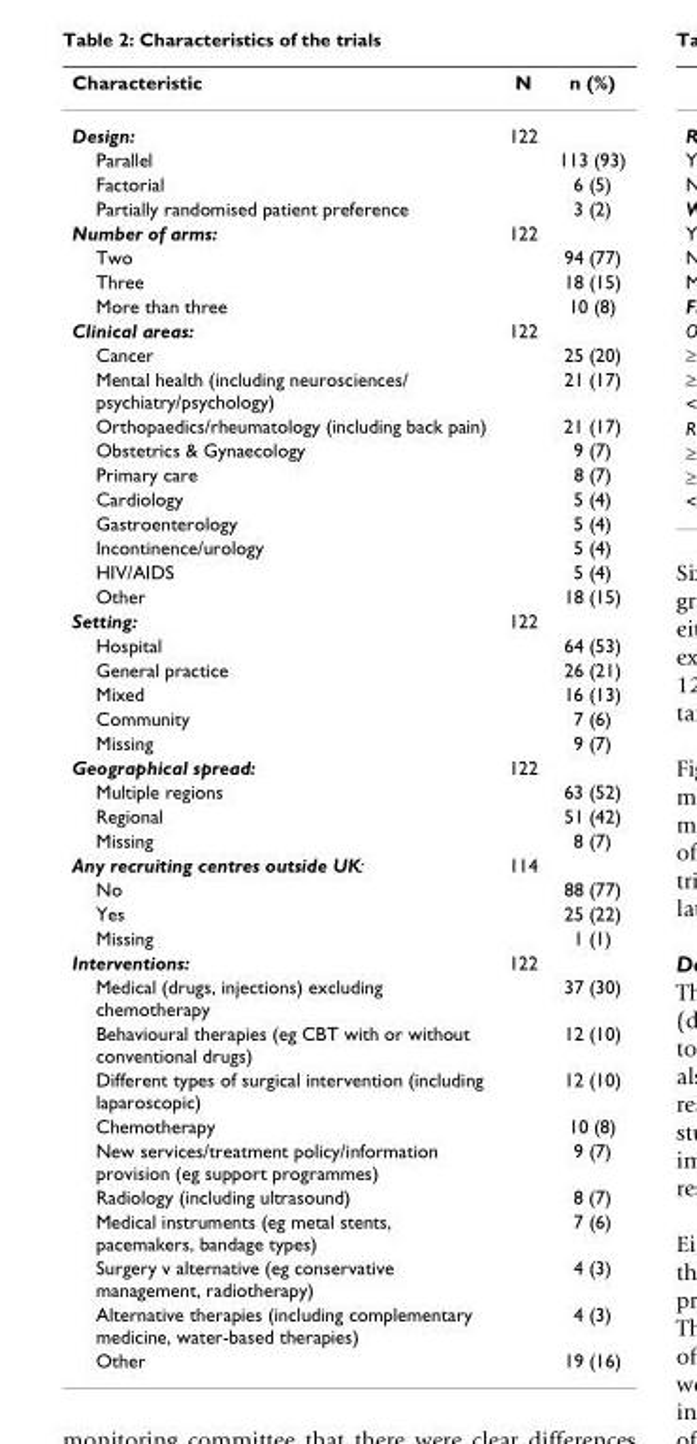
<table><thead><tr><td>Characteristic</td><td>N</td><td>n (%)</td></tr></thead><tbody><tr><td>Design:</td><td>122</td><td></td></tr><tr><td>Parallel</td><td></td><td>113 (93)</td></tr><tr><td>Factorial</td><td></td><td>6 (5)</td></tr><tr><td>Partially randomised patient preference</td><td></td><td>3 (2)</td></tr><tr><td>Number of arms:</td><td>122</td><td></td></tr><tr><td>Two</td><td></td><td>94 (77)</td></tr><tr><td>Three</td><td></td><td>18 (15)</td></tr><tr><td>More than three</td><td></td><td>10 (8)</td></tr><tr><td>Clinical areas:</td><td>122</td><td></td></tr><tr><td>Cancer</td><td></td><td>25 (20)</td></tr><tr><td>Mental health (including neurosciences/ psychiatry/psychology)</td><td></td><td>21 (17)</td></tr><tr><td>Orthopaedics/rheumatology (including back pain)</td><td></td><td>21 (17)</td></tr><tr><td>Obstetrics &amp; Gynaecology</td><td></td><td>9 (7)</td></tr><tr><td>Primary care</td><td></td><td>8 (7)</td></tr><tr><td>Cardiology</td><td></td><td>5 (4)</td></tr><tr><td>Gastroenterology</td><td></td><td>5 (4)</td></tr><tr><td>Incontinence/urology</td><td></td><td>5 (4)</td></tr><tr><td>HIV/AIDS</td><td></td><td>5 (4)</td></tr><tr><td>Other</td><td></td><td>18 (15)</td></tr><tr><td>Setting:</td><td>122</td><td></td></tr><tr><td>Hospital</td><td></td><td>64 (53)</td></tr><tr><td>General practice</td><td></td><td>26 (21)</td></tr><tr><td>Mixed</td><td></td><td>16 (13)</td></tr><tr><td>Community</td><td></td><td>7 (6)</td></tr><tr><td>Missing</td><td></td><td>9 (7)</td></tr><tr><td>Geographical spread:</td><td>122</td><td></td></tr><tr><td>Multiple regions</td><td></td><td>63 (52)</td></tr><tr><td>Regional</td><td></td><td>51 (42)</td></tr><tr><td>Missing</td><td></td><td>8 (7)</td></tr><tr><td>Any recruiting centres outside UK:</td><td>114</td><td></td></tr><tr><td>No</td><td></td><td>88 (77)</td></tr><tr><td>Yes</td><td></td><td>25 (22)</td></tr><tr><td>Missing</td><td></td><td>1 (1)</td></tr><tr><td>Interventions:</td><td>122</td><td></td></tr><tr><td>Medical (drugs, injections) excluding chemotherapy</td><td></td><td>37 (30)</td></tr><tr><td>Behavioural therapies (eg CBT with or without conventional drugs)</td><td></td><td>12 (10)</td></tr><tr><td>Different types of surgical intervention (including laparoscopic)</td><td></td><td>12 (10)</td></tr><tr><td>Chemotherapy</td><td></td><td>10 (8)</td></tr><tr><td>New services/treatment policy/information provision (eg support programmes)</td><td></td><td>9 (7)</td></tr><tr><td>Radiology (including ultrasound)</td><td></td><td>8 (7)</td></tr><tr><td>Medical instruments (eg metal stents, pacemakers, bandage types)</td><td></td><td>7 (6)</td></tr><tr><td>Surgery v alternative (eg conservative management, radiotherapy)</td><td></td><td>4 (3)</td></tr><tr><td>Alternative therapies (including complementary medicine, water-based therapies)</td><td></td><td>4 (3)</td></tr><tr><td>Other</td><td></td><td>19 (16)</td></tr></tbody></table>